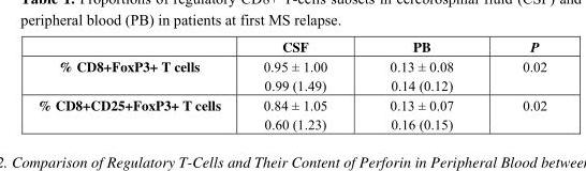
<table><thead><tr><td></td><td>CSF</td><td>PB</td><td>P</td></tr></thead><tbody><tr><td>% CD8+FoxP3+ T cells</td><td>0.95 ± 1.00 0.99 (1.49)</td><td>0.13 ± 0.08 0.14 (0.12)</td><td>0.02</td></tr><tr><td>% CD8+CD25+FoxP3+ T cells</td><td>0.84 ± 1.05 0.60 (1.23)</td><td>0.13 ± 0.07 0.16 (0.15)</td><td>0.02</td></tr></tbody></table>